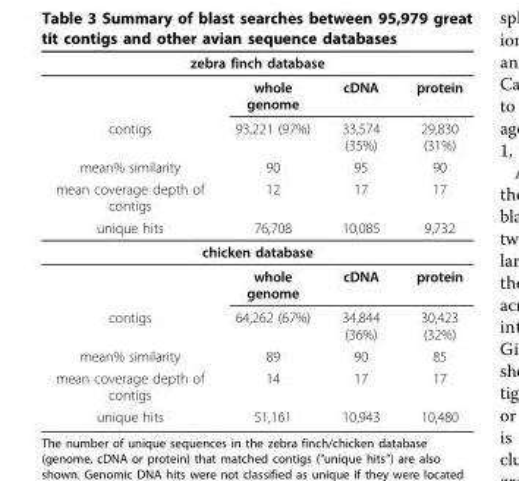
<table><thead><tr><td colspan="4">zebra finch database</td></tr><tr><td></td><td>whole genome</td><td>cDNA</td><td>protein</td></tr></thead><tbody><tr><td>contigs</td><td>93,221 (97%)</td><td>33,574 (35%)</td><td>29,830 (31%)</td></tr><tr><td>mean% similarity</td><td>90</td><td>95</td><td>90</td></tr><tr><td>mean coverage depth of contigs</td><td>12</td><td>17</td><td>17</td></tr><tr><td>unique hits</td><td>76,708</td><td>10,085</td><td>9,732</td></tr><tr><td colspan="4">chicken database</td></tr><tr><td></td><td>whole genome</td><td>cDNA</td><td>protein</td></tr><tr><td>contigs</td><td>64,262 (67%)</td><td>34,844 (36%)</td><td>30,423 (32%)</td></tr><tr><td>mean% similarity</td><td>89</td><td>90</td><td>85</td></tr><tr><td>mean coverage depth of contigs</td><td>14</td><td>17</td><td>17</td></tr><tr><td>unique hits</td><td>51,161</td><td>10,943</td><td>10,480</td></tr></tbody></table>